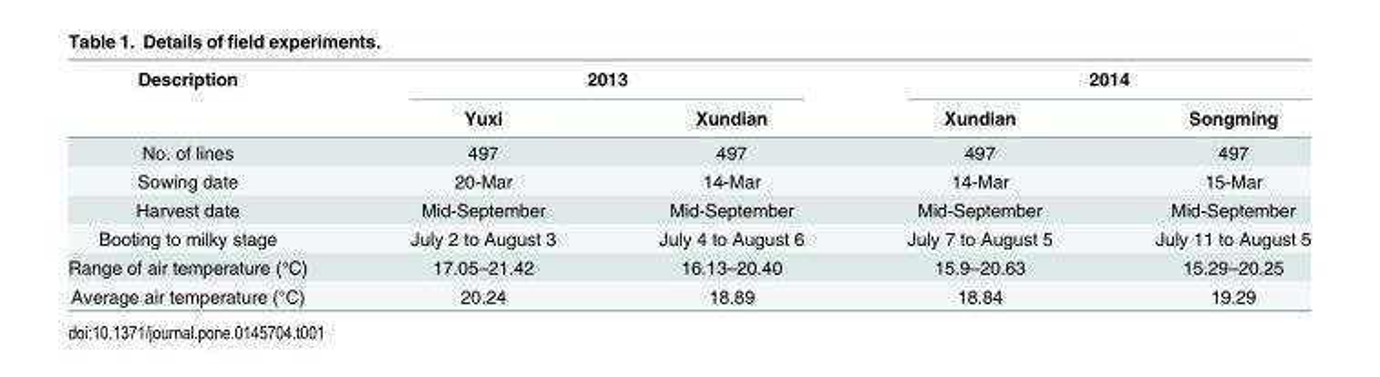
<table><thead><tr><td rowspan="2">Description</td><td colspan="2">2013</td><td colspan="2">2014</td></tr><tr><td>Yuxi</td><td>Xundian</td><td>Xundian</td><td>Songming</td></tr></thead><tbody><tr><td>No. of lines</td><td>497</td><td>497</td><td>497</td><td>497</td></tr><tr><td>Sowing date</td><td>20-Mar</td><td>14-Mar</td><td>14-Mar</td><td>15-Mar</td></tr><tr><td>Harvest date</td><td>Mid-September</td><td>Mid-September</td><td>Mid-September</td><td>Mid-September</td></tr><tr><td>Booting to milky stage</td><td>July 2 to August 3</td><td>July 4 to August 6</td><td>July 7 to August 5</td><td>July 11 to August 5</td></tr><tr><td>Range of air temperature (°C)</td><td>17.05–21.42</td><td>16.13–20.40</td><td>15.9–20.63</td><td>15.29–20.25</td></tr><tr><td>Average air temperature (°C)</td><td>20.24</td><td>18.89</td><td>18.84</td><td>19.29</td></tr></tbody></table>